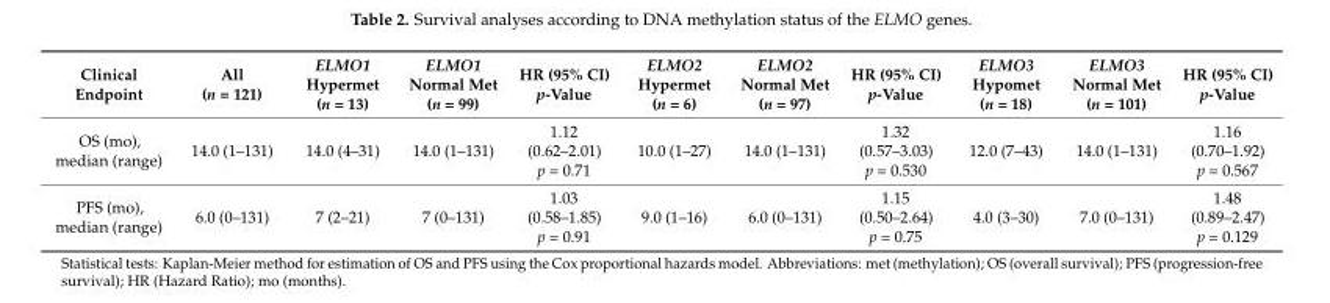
<table><thead><tr><td>Clinical Endpoint</td><td>All (n = 121)</td><td>ELMO1 Hypermet (n = 13)</td><td>ELMO1 Normal Met (n = 99)</td><td>HR (95% CI) p-Value</td><td>ELMO2 Hypermet (n = 6)</td><td>ELMO2 Normal Met (n = 97)</td><td>HR (95% CI) p-Value</td><td>ELMO3 Hypomet (n = 18)</td><td>ELMO3 Normal Met (n = 101)</td><td>HR (95% CI) p-Value</td></tr></thead><tbody><tr><td>OS (mo), median (range)</td><td>14.0 (1–131)</td><td>14.0 (4–31)</td><td>14.0 (1–131)</td><td>1.12 (0.62–2.01) p = 0.71</td><td>10.0 (1–27)</td><td>14.0 (1–131)</td><td>1.32 (0.57–3.03) p = 0.530</td><td>12.0 (7–43)</td><td>14.0 (1–131)</td><td>1.16 (0.70–1.92) p = 0.567</td></tr><tr><td>PFS (mo), median (range)</td><td>6.0 (0–131)</td><td>7 (2–21)</td><td>7 (0–131)</td><td>1.03 (0.58–1.85) p = 0.91</td><td>9.0 (1–16)</td><td>6.0 (0–131)</td><td>1.15 (0.50–2.64) p = 0.75</td><td>4.0 (3–30)</td><td>7.0 (0–131)</td><td>1.48 (0.89–2.47) p = 0.129</td></tr></tbody></table>